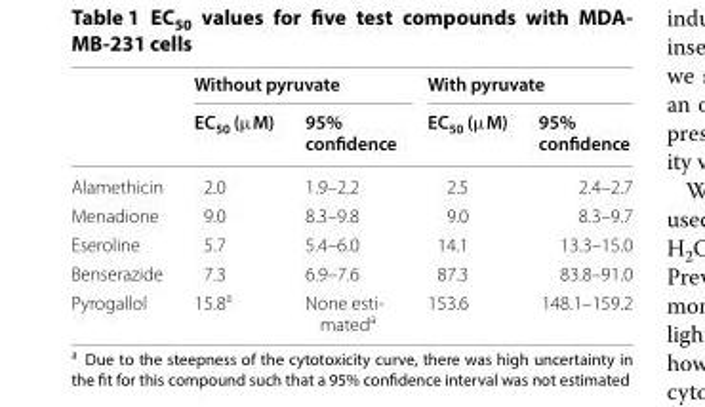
<table><thead><tr><td rowspan="2"></td><td colspan="2">Without pyruvate</td><td colspan="2">With pyruvate</td></tr><tr><td>EC<sub>50</sub> (μM)</td><td>95% confidence</td><td>EC<sub>50</sub> (μM)</td><td>95% confidence</td></tr></thead><tbody><tr><td>Alamethicin</td><td>2.0</td><td>1.9–2.2</td><td>2.5</td><td>2.4–2.7</td></tr><tr><td>Menadione</td><td>9.0</td><td>8.3–9.8</td><td>9.0</td><td>8.3–9.7</td></tr><tr><td>Eseroline</td><td>5.7</td><td>5.4–6.0</td><td>14.1</td><td>13.3–15.0</td></tr><tr><td>Benserazide</td><td>7.3</td><td>6.9–7.6</td><td>87.3</td><td>83.8–91.0</td></tr><tr><td>Pyrogallol</td><td>15.8<sup>a</sup></td><td>None esti- mateda</td><td>153.6</td><td>148.1–159.2</td></tr></tbody></table>